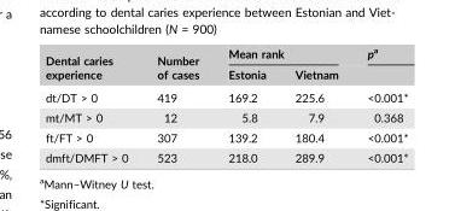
<table><thead><tr><td rowspan="2">Dental caries experience</td><td rowspan="2">Number of cases</td><td colspan="2">Mean rank</td><td rowspan="2">pa</td></tr><tr><td>Estonia</td><td>Vietnam</td></tr></thead><tbody><tr><td>dt/DT &gt; 0</td><td>419</td><td>169.2</td><td>225.6</td><td>&lt;0.001*</td></tr><tr><td>mt/MT &gt; 0</td><td>12</td><td>5.8</td><td>7.9</td><td>0.368</td></tr><tr><td>ft/FT &gt; 0</td><td>307</td><td>139.2</td><td>180.4</td><td>&lt;0.001*</td></tr><tr><td>dmft/DMFT &gt; 0</td><td>523</td><td>218.0</td><td>289.9</td><td>&lt;0.001*</td></tr></tbody></table>